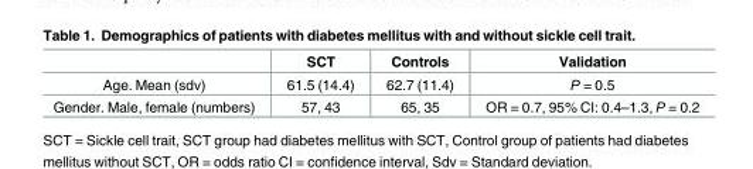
<table><thead><tr><td></td><td>SCT</td><td>Controls</td><td>Validation</td></tr></thead><tbody><tr><td>Age. Mean (sdv)</td><td>61.5 (14.4)</td><td>62.7 (11.4)</td><td>P = 0.5</td></tr><tr><td>Gender. Male, female (numbers)</td><td>57, 43</td><td>65, 35</td><td>OR = 0.7, 95% CI: 0.4–1.3, P = 0.2</td></tr></tbody></table>